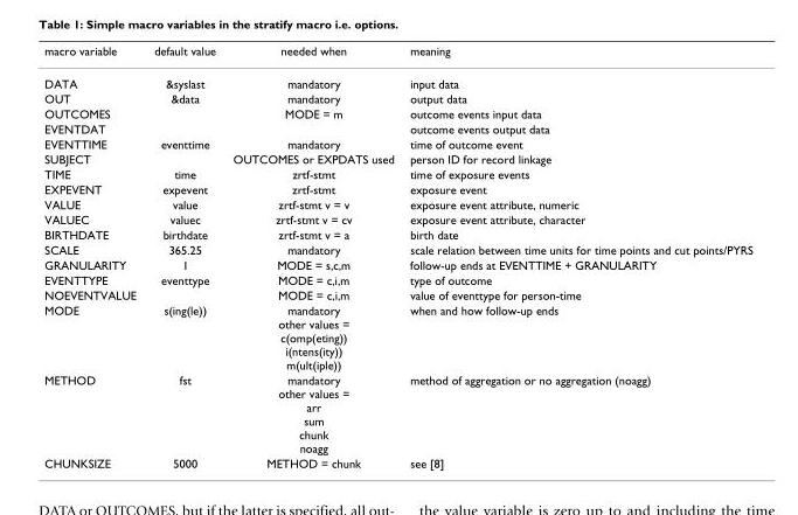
<table><thead><tr><td>macro variable</td><td>default value</td><td>needed when</td><td>meaning</td></tr></thead><tbody><tr><td>DATA</td><td>&amp;syslast</td><td>mandatory</td><td>input data</td></tr><tr><td>OUT</td><td>&amp;data</td><td>mandatory</td><td>output data</td></tr><tr><td>OUTCOMES</td><td></td><td>MODE = m</td><td>outcome events input data</td></tr><tr><td>EVENTDAT</td><td></td><td></td><td>outcome events output data</td></tr><tr><td>EVENTTIME</td><td>eventtime</td><td>mandatory</td><td>time of outcome event</td></tr><tr><td>SUBJECT</td><td></td><td>OUTCOMES or EXPDATS used</td><td>person ID for record linkage</td></tr><tr><td>TIME</td><td>time</td><td>zrtf-stmt</td><td>time of exposure events</td></tr><tr><td>EXPEVENT</td><td>expevent</td><td>zrtf-stmt</td><td>exposure event</td></tr><tr><td>VALUE</td><td>value</td><td>zrtf-stmt v = v</td><td>exposure event attribute, numeric</td></tr><tr><td>VALUEC</td><td>valuec</td><td>zrtf-stmt v = cv</td><td>exposure event attribute, character</td></tr><tr><td>BIRTHDATE</td><td>birthdate</td><td>zrtf-stmt v = a</td><td>birth date</td></tr><tr><td>SCALE</td><td>365.25</td><td>mandatory</td><td>scale relation between time units for time points and cut points/PYRS</td></tr><tr><td>GRANULARITY</td><td>1</td><td>MODE = s,c,m</td><td>follow-up ends at EVENTTIME + GRANULARITY</td></tr><tr><td>EVENTTYPE</td><td>eventtype</td><td>MODE = c,i,m</td><td>type of outcome</td></tr><tr><td>NOEVENTVALUE</td><td></td><td>MODE = c,i,m</td><td>value of eventtype for person-time</td></tr><tr><td>MODE</td><td>s(ing(le))</td><td>mandatory other values = c(omp(eting)) i(ntens(ity)) m(ult(iple))</td><td>when and how follow-up ends</td></tr><tr><td>METHOD</td><td>fst</td><td>mandatory other values = arr sum chunk noagg</td><td>method of aggregation or no aggregation (noagg)</td></tr><tr><td>CHUNKSIZE</td><td>5000</td><td>METHOD = chunk</td><td>see [8]</td></tr></tbody></table>